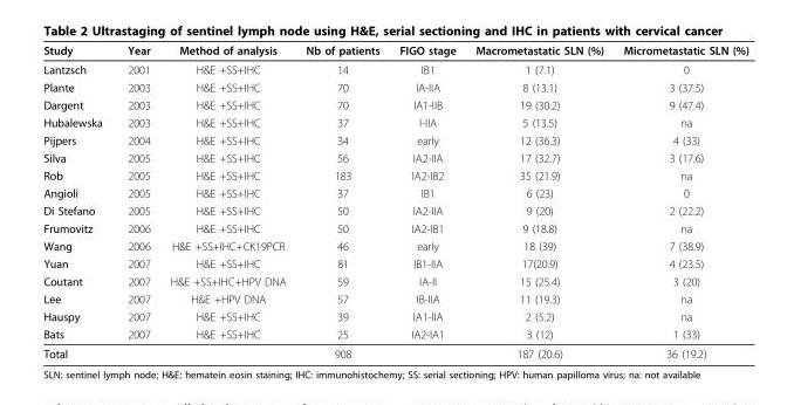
<table><thead><tr><td>Study</td><td>Year</td><td>Method of analysis</td><td>Nb of patients</td><td>FIGO stage</td><td>Macrometastatic SLN (%)</td><td>Micrometastatic SLN (%)</td></tr></thead><tbody><tr><td>Lantzsch</td><td>2001</td><td>H&amp;E +SS+IHC</td><td>14</td><td>IB1</td><td>1 (7.1)</td><td>0</td></tr><tr><td>Plante</td><td>2003</td><td>H&amp;E +SS+IHC</td><td>70</td><td>IA-IIA</td><td>8 (13.1)</td><td>3 (37.5)</td></tr><tr><td>Dargent</td><td>2003</td><td>H&amp;E +SS+IHC</td><td>70</td><td>IA1-IIB</td><td>19 (30.2)</td><td>9 (47.4)</td></tr><tr><td>Hubalewska</td><td>2003</td><td>H&amp;E +SS+IHC</td><td>37</td><td>I-IIA</td><td>5 (13.5)</td><td>na</td></tr><tr><td>Pijpers</td><td>2004</td><td>H&amp;E +SS+IHC</td><td>34</td><td>early</td><td>12 (36.3)</td><td>4 (33)</td></tr><tr><td>Silva</td><td>2005</td><td>H&amp;E +SS+IHC</td><td>56</td><td>IA2-IIA</td><td>17 (32.7)</td><td>3 (17.6)</td></tr><tr><td>Rob</td><td>2005</td><td>H&amp;E +SS+IHC</td><td>183</td><td>IA2-IB2</td><td>35 (21.9)</td><td>na</td></tr><tr><td>Angioli</td><td>2005</td><td>H&amp;E +SS+IHC</td><td>37</td><td>IB1</td><td>6 (23)</td><td>0</td></tr><tr><td>Di Stefano</td><td>2005</td><td>H&amp;E +SS+IHC</td><td>50</td><td>IA2-IIA</td><td>9 (20)</td><td>2 (22.2)</td></tr><tr><td>Frumovitz</td><td>2006</td><td>H&amp;E +SS+IHC</td><td>50</td><td>IA2-IB1</td><td>9 (18.8)</td><td>na</td></tr><tr><td>Wang</td><td>2006</td><td>H&amp;E +SS+IHC+CK19PCR</td><td>46</td><td>early</td><td>18 (39)</td><td>7 (38.9)</td></tr><tr><td>Yuan</td><td>2007</td><td>H&amp;E +SS+IHC</td><td>81</td><td>IB1-IIA</td><td>17(20.9)</td><td>4 (23.5)</td></tr><tr><td>Coutant</td><td>2007</td><td>H&amp;E +SS+IHC+HPV DNA</td><td>59</td><td>IA-II</td><td>15 (25.4)</td><td>3 (20)</td></tr><tr><td>Lee</td><td>2007</td><td>H&amp;E +HPV DNA</td><td>57</td><td>IB-IIA</td><td>11 (19.3)</td><td>na</td></tr><tr><td>Hauspy</td><td>2007</td><td>H&amp;E +SS+IHC</td><td>39</td><td>IA1-IIA</td><td>2 (5.2)</td><td>na</td></tr><tr><td>Bats</td><td>2007</td><td>H&amp;E +SS+IHC</td><td>25</td><td>IA2-IA1</td><td>3 (12)</td><td>1 (33)</td></tr><tr><td>Total</td><td></td><td></td><td>908</td><td></td><td>187 (20.6)</td><td>36 (19.2)</td></tr></tbody></table>